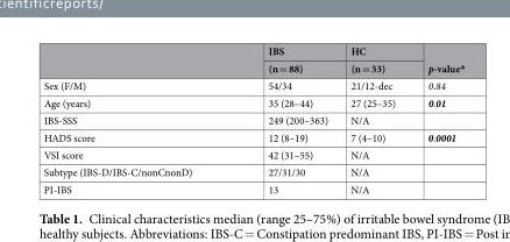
<table><thead><tr><td rowspan="2"></td><td rowspan="2">IBS (n = 88)</td><td rowspan="2">HC (n = 33)</td><td rowspan="2">p-value*</td></tr><tr></tr></thead><tbody><tr><td>Sex (F/M)</td><td>54/34</td><td>21/12-dec</td><td>0.84</td></tr><tr><td>Age (years)</td><td>35 (28–44)</td><td>27 (25–35)</td><td>0.01</td></tr><tr><td>IBS-SSS</td><td>249 (200–363)</td><td>N/A</td><td></td></tr><tr><td>HADS score</td><td>12 (8–19)</td><td>7 (4–10)</td><td>0.0001</td></tr><tr><td>VSI score</td><td>42 (31–55)</td><td>N/A</td><td></td></tr><tr><td>Subtype (IBS-D/IBS-C/nonCnonD)</td><td>27/31/30</td><td>N/A</td><td></td></tr><tr><td>PI-IBS</td><td>13</td><td>N/A</td><td></td></tr></tbody></table>